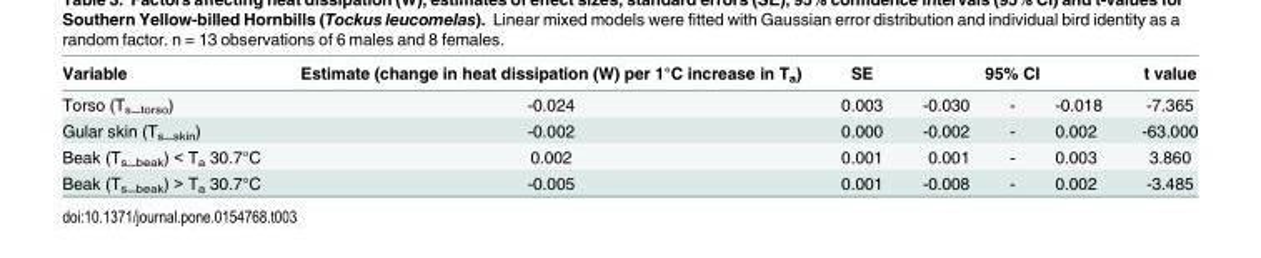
<table><thead><tr><td rowspan="2">Variable Torso (Ts_torso)</td><td rowspan="2">Estimate (change in heat dissipation (W) per 1°C increase in T<sub>a</sub>) -0.024</td><td rowspan="2">SE 0.003</td><td colspan="3">95% CI</td><td rowspan="2">t value -7.365</td></tr><tr><td>-0.030</td><td>-</td><td>-0.018</td></tr></thead><tbody><tr><td>Gular skin (Ts_skin)</td><td>-0.002</td><td>0.000</td><td>-0.002</td><td>-</td><td>0.002</td><td>-63.000</td></tr><tr><td>Beak (Ts_beak) &lt; Ta 30.7°C</td><td>0.002</td><td>0.001</td><td>0.001</td><td>-</td><td>0.003</td><td>3.860</td></tr><tr><td>Beak (Ts_beak) &gt; Ta 30.7°C</td><td>-0.005</td><td>0.001</td><td>-0.008</td><td>-</td><td>0.002</td><td>-3.485</td></tr></tbody></table>